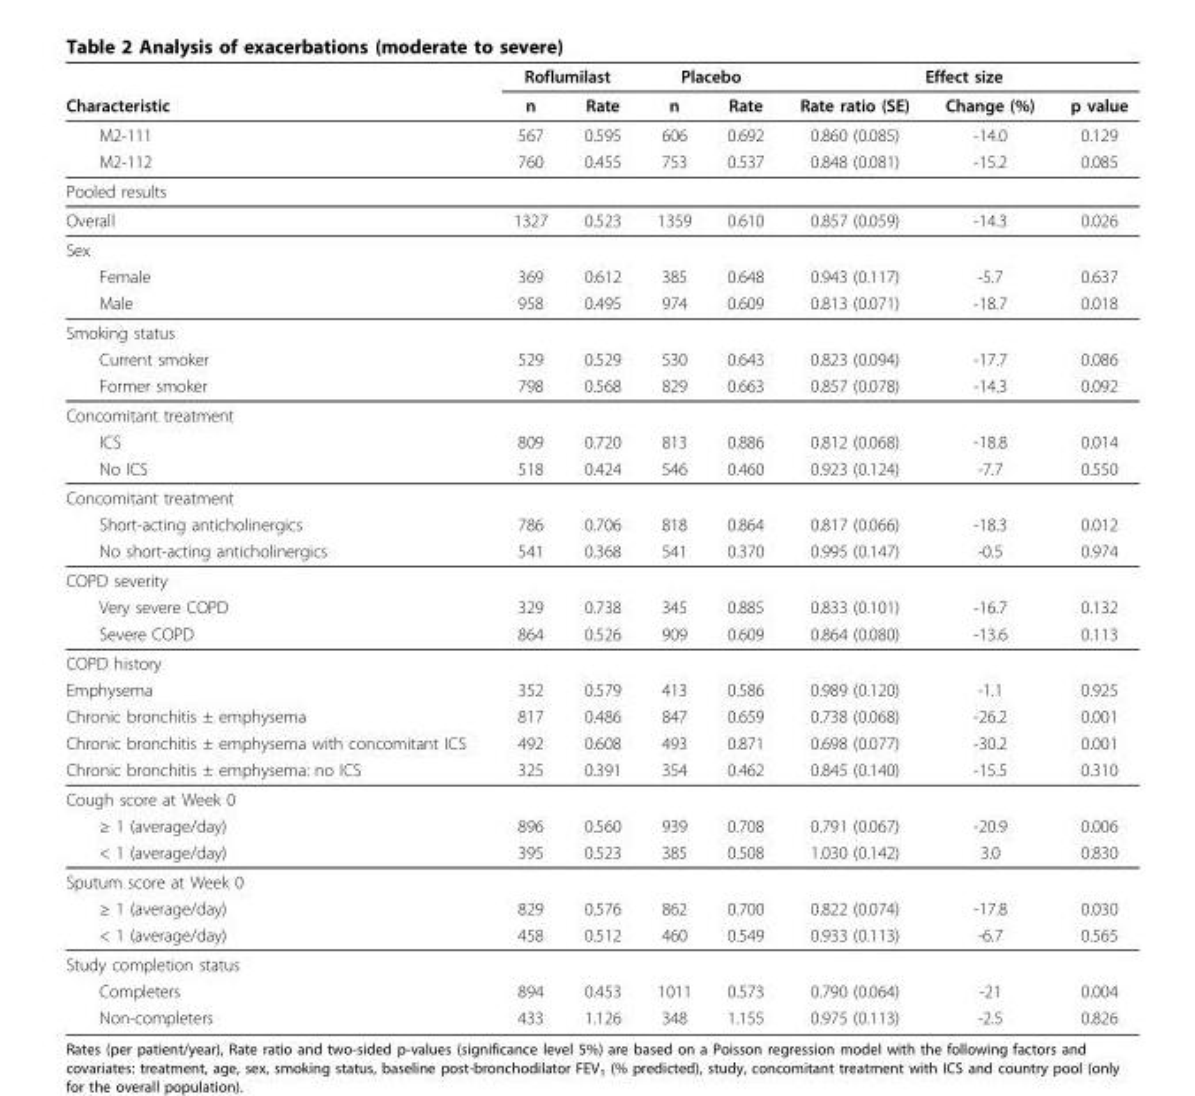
<table><thead><tr><td rowspan="2">Characteristic</td><td colspan="2">Roflumilast</td><td colspan="2">Placebo</td><td colspan="3">Effect size</td></tr><tr><td>n</td><td>Rate</td><td>n</td><td>Rate</td><td>Rate ratio (SE)</td><td>Change (%)</td><td>p value</td></tr></thead><tbody><tr><td>M2-111</td><td>567</td><td>0.595</td><td>606</td><td>0.692</td><td>0.860 (0.085)</td><td>-14.0</td><td>0.129</td></tr><tr><td>M2-112</td><td>760</td><td>0.455</td><td>753</td><td>0.537</td><td>0.848 (0.081)</td><td>-15.2</td><td>0.085</td></tr><tr><td colspan="8">Pooled results</td></tr><tr><td>Overall</td><td>1327</td><td>0.523</td><td>1359</td><td>0.610</td><td>0.857 (0.059)</td><td>-14.3</td><td>0.026</td></tr><tr><td colspan="8">Sex</td></tr><tr><td>Female</td><td>369</td><td>0.612</td><td>385</td><td>0.648</td><td>0.943 (0.117)</td><td>-5.7</td><td>0.637</td></tr><tr><td>Male</td><td>958</td><td>0.495</td><td>974</td><td>0.609</td><td>0.813 (0.071)</td><td>-18.7</td><td>0.018</td></tr><tr><td colspan="8">Smoking status</td></tr><tr><td>Current smoker</td><td>529</td><td>0.529</td><td>530</td><td>0.643</td><td>0.823 (0.094)</td><td>-17.7</td><td>0.086</td></tr><tr><td>Former smoker</td><td>798</td><td>0.568</td><td>829</td><td>0.663</td><td>0.857 (0.078)</td><td>-14.3</td><td>0.092</td></tr><tr><td colspan="8">Concomitant treatment</td></tr><tr><td>ICS</td><td>809</td><td>0.720</td><td>813</td><td>0.886</td><td>0.812 (0.068)</td><td>-18.8</td><td>0.014</td></tr><tr><td>No ICS</td><td>518</td><td>0.424</td><td>546</td><td>0.460</td><td>0.923 (0.124)</td><td>-7.7</td><td>0.550</td></tr><tr><td colspan="8">Concomitant treatment</td></tr><tr><td>Short-acting anticholinergics</td><td>786</td><td>0.706</td><td>818</td><td>0.864</td><td>0.817 (0.066)</td><td>-18.3</td><td>0.012</td></tr><tr><td>No short-acting anticholinergics</td><td>541</td><td>0.368</td><td>541</td><td>0.370</td><td>0.995 (0.147)</td><td>-0.5</td><td>0.974</td></tr><tr><td colspan="8">COPD severity</td></tr><tr><td>Very severe COPD</td><td>329</td><td>0.738</td><td>345</td><td>0.885</td><td>0.833 (0.101)</td><td>-16.7</td><td>0.132</td></tr><tr><td>Severe COPD</td><td>864</td><td>0.526</td><td>909</td><td>0.609</td><td>0.864 (0.080)</td><td>-13.6</td><td>0.113</td></tr><tr><td colspan="8">COPD history</td></tr><tr><td>Emphysema</td><td>352</td><td>0.579</td><td>413</td><td>0.586</td><td>0.989 (0.120)</td><td>-1.1</td><td>0.925</td></tr><tr><td>Chronic bronchitis ± emphysema</td><td>817</td><td>0.486</td><td>847</td><td>0.659</td><td>0.738 (0.068)</td><td>-26.2</td><td>0.001</td></tr><tr><td>Chronic bronchitis ± emphysema with concomitant ICS</td><td>492</td><td>0.608</td><td>493</td><td>0.871</td><td>0.698 (0.077)</td><td>-30.2</td><td>0.001</td></tr><tr><td>Chronic bronchitis ± emphysema: no ICS</td><td>325</td><td>0.391</td><td>354</td><td>0.462</td><td>0.845 (0.140)</td><td>-15.5</td><td>0.310</td></tr><tr><td colspan="8">Cough score at Week 0</td></tr><tr><td>≥ 1 (average/day)</td><td>896</td><td>0.560</td><td>939</td><td>0.708</td><td>0.791 (0.067)</td><td>-20.9</td><td>0.006</td></tr><tr><td>&lt; 1 (average/day)</td><td>395</td><td>0.523</td><td>385</td><td>0.508</td><td>1.030 (0.142)</td><td>3.0</td><td>0.830</td></tr><tr><td colspan="8">Sputum score at Week 0</td></tr><tr><td>≥ 1 (average/day)</td><td>829</td><td>0.576</td><td>862</td><td>0.700</td><td>0.822 (0.074)</td><td>-17.8</td><td>0.030</td></tr><tr><td>&lt; 1 (average/day)</td><td>458</td><td>0.512</td><td>460</td><td>0.549</td><td>0.933 (0.113)</td><td>-6.7</td><td>0.565</td></tr><tr><td colspan="8">Study completion status</td></tr><tr><td>Completers</td><td>894</td><td>0.453</td><td>1011</td><td>0.573</td><td>0.790 (0.064)</td><td>-21</td><td>0.004</td></tr><tr><td>Non-completers</td><td>433</td><td>1.126</td><td>348</td><td>1.155</td><td>0.975 (0.113)</td><td>-2.5</td><td>0.826</td></tr></tbody></table>